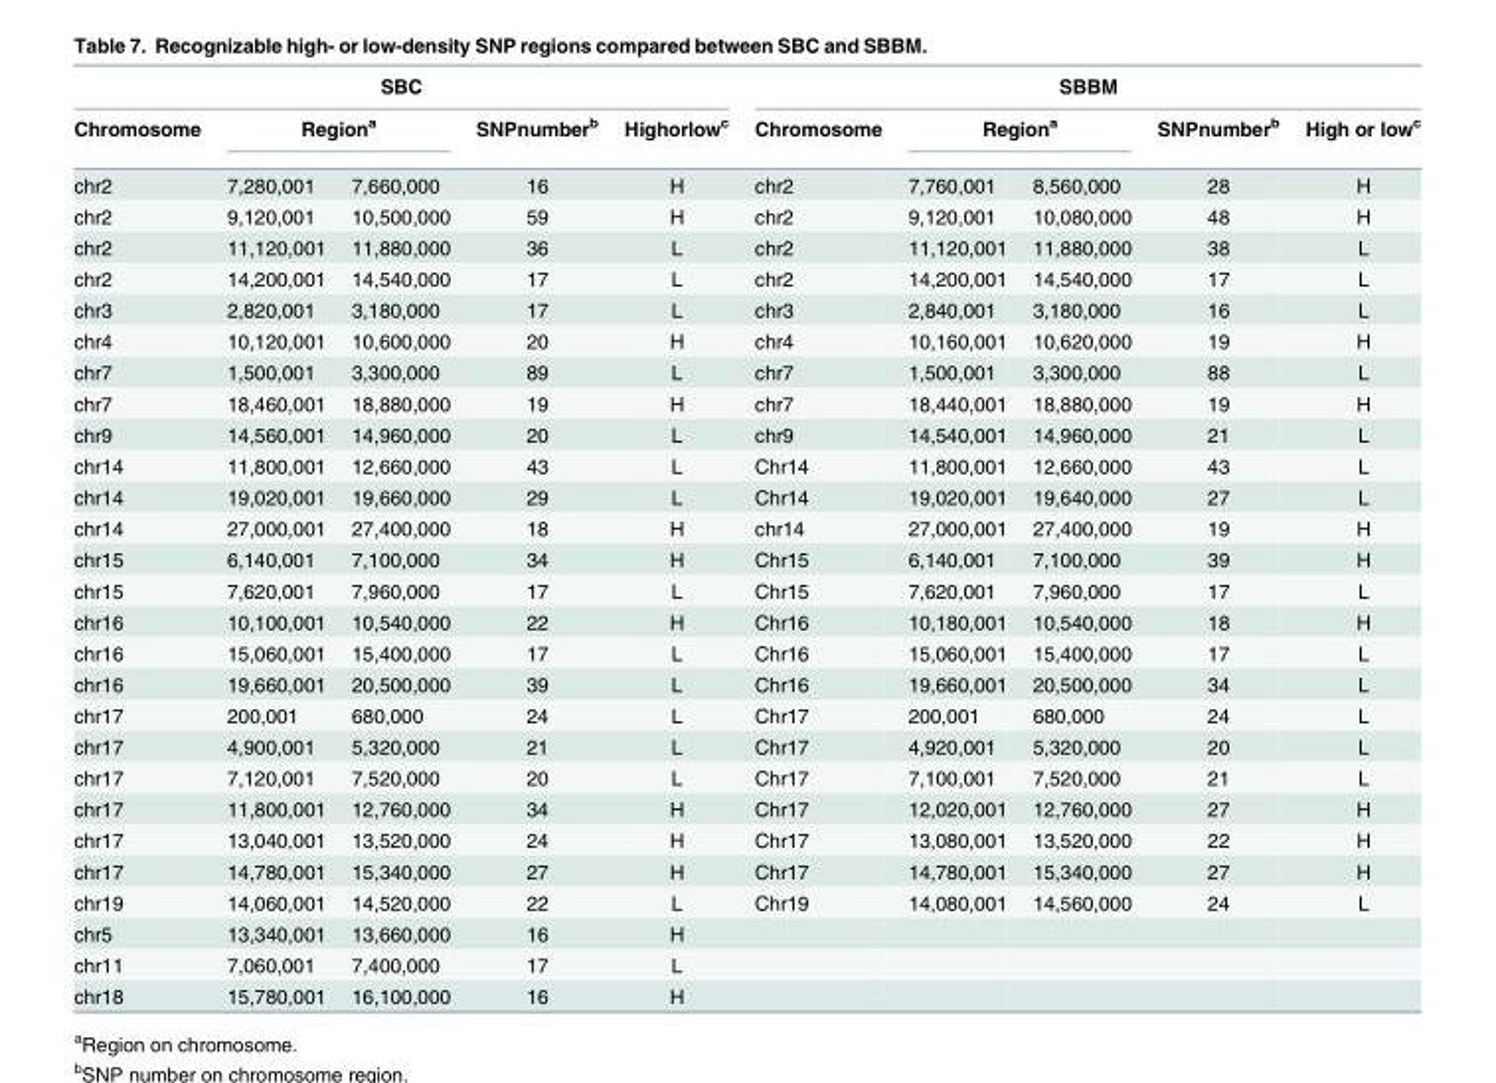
<table><thead><tr><td colspan="5">SBC</td><td colspan="5">SBBM</td></tr><tr><td rowspan="2">Chromosome chr2</td><td colspan="2">Region<sup>a</sup></td><td rowspan="2">SNPnumber<sup>b</sup> 16</td><td rowspan="2">Highorlow<sup>c</sup> H</td><td rowspan="2">Chromosome chr2</td><td colspan="2">Region<sup>a</sup></td><td rowspan="2">SNPnumber<sup>b</sup> 28</td><td rowspan="2">High or low<sup>c</sup> H</td></tr><tr><td>7,280,001</td><td>7,660,000</td><td>7,760,001</td><td>8,560,000</td></tr></thead><tbody><tr><td>chr2</td><td>9,120,001</td><td>10,500,000</td><td>59</td><td>H</td><td>chr2</td><td>9,120,001</td><td>10,080,000</td><td>48</td><td>H</td></tr><tr><td>chr2</td><td>11,120,001</td><td>11,880,000</td><td>36</td><td>L</td><td>chr2</td><td>11,120,001</td><td>11,880,000</td><td>38</td><td>L</td></tr><tr><td>chr2</td><td>14,200,001</td><td>14,540,000</td><td>17</td><td>L</td><td>chr2</td><td>14,200,001</td><td>14,540,000</td><td>17</td><td>L</td></tr><tr><td>chr3</td><td>2,820,001</td><td>3,180,000</td><td>17</td><td>L</td><td>chr3</td><td>2,840,001</td><td>3,180,000</td><td>16</td><td>L</td></tr><tr><td>chr4</td><td>10,120,001</td><td>10,600,000</td><td>20</td><td>H</td><td>chr4</td><td>10,160,001</td><td>10,620,000</td><td>19</td><td>H</td></tr><tr><td>chr7</td><td>1,500,001</td><td>3,300,000</td><td>89</td><td>L</td><td>chr7</td><td>1,500,001</td><td>3,300,000</td><td>88</td><td>L</td></tr><tr><td>chr7</td><td>18,460,001</td><td>18,880,000</td><td>19</td><td>H</td><td>chr7</td><td>18,440,001</td><td>18,880,000</td><td>19</td><td>H</td></tr><tr><td>chr9</td><td>14,560,001</td><td>14,960,000</td><td>20</td><td>L</td><td>chr9</td><td>14,540,001</td><td>14,960,000</td><td>21</td><td>L</td></tr><tr><td>chr14</td><td>11,800,001</td><td>12,660,000</td><td>43</td><td>L</td><td>Chr14</td><td>11,800,001</td><td>12,660,000</td><td>43</td><td>L</td></tr><tr><td>chr14</td><td>19,020,001</td><td>19,660,000</td><td>29</td><td>L</td><td>Chr14</td><td>19,020,001</td><td>19,640,000</td><td>27</td><td>L</td></tr><tr><td>chr14</td><td>27,000,001</td><td>27,400,000</td><td>18</td><td>H</td><td>chr14</td><td>27,000,001</td><td>27,400,000</td><td>19</td><td>H</td></tr><tr><td>chr15</td><td>6,140,001</td><td>7,100,000</td><td>34</td><td>H</td><td>Chr15</td><td>6,140,001</td><td>7,100,000</td><td>39</td><td>H</td></tr><tr><td>chr15</td><td>7,620,001</td><td>7,960,000</td><td>17</td><td>L</td><td>Chr15</td><td>7,620,001</td><td>7,960,000</td><td>17</td><td>L</td></tr><tr><td>chr16</td><td>10,100,001</td><td>10,540,000</td><td>22</td><td>H</td><td>Chr16</td><td>10,180,001</td><td>10,540,000</td><td>18</td><td>H</td></tr><tr><td>chr16</td><td>15,060,001</td><td>15,400,000</td><td>17</td><td>L</td><td>Chr16</td><td>15,060,001</td><td>15,400,000</td><td>17</td><td>L</td></tr><tr><td>chr16</td><td>19,660,001</td><td>20,500,000</td><td>39</td><td>L</td><td>Chr16</td><td>19,660,001</td><td>20,500,000</td><td>34</td><td>L</td></tr><tr><td>chr17</td><td>200,001</td><td>680,000</td><td>24</td><td>L</td><td>Chr17</td><td>200,001</td><td>680,000</td><td>24</td><td>L</td></tr><tr><td>chr17</td><td>4,900,001</td><td>5,320,000</td><td>21</td><td>L</td><td>Chr17</td><td>4,920,001</td><td>5,320,000</td><td>20</td><td>L</td></tr><tr><td>chr17</td><td>7,120,001</td><td>7,520,000</td><td>20</td><td>L</td><td>Chr17</td><td>7,100,001</td><td>7,520,000</td><td>21</td><td>L</td></tr><tr><td>chr17</td><td>11,800,001</td><td>12,760,000</td><td>34</td><td>H</td><td>Chr17</td><td>12,020,001</td><td>12,760,000</td><td>27</td><td>H</td></tr><tr><td>chr17</td><td>13,040,001</td><td>13,520,000</td><td>24</td><td>H</td><td>Chr17</td><td>13,080,001</td><td>13,520,000</td><td>22</td><td>H</td></tr><tr><td>chr17</td><td>14,780,001</td><td>15,340,000</td><td>27</td><td>H</td><td>Chr17</td><td>14,780,001</td><td>15,340,000</td><td>27</td><td>H</td></tr><tr><td>chr19</td><td>14,060,001</td><td>14,520,000</td><td>22</td><td>L</td><td>Chr19</td><td>14,080,001</td><td>14,560,000</td><td>24</td><td>L</td></tr><tr><td>chr5</td><td>13,340,001</td><td>13,660,000</td><td>16</td><td>H</td><td></td><td></td><td></td><td></td><td></td></tr><tr><td>chr11</td><td>7,060,001</td><td>7,400,000</td><td>17</td><td>L</td><td></td><td></td><td></td><td></td><td></td></tr><tr><td>chr18</td><td>15,780,001</td><td>16,100,000</td><td>16</td><td>H</td><td></td><td></td><td></td><td></td><td></td></tr></tbody></table>